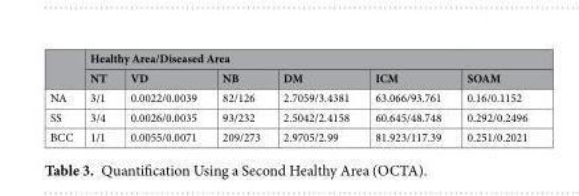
<table><thead><tr><td rowspan="2"></td><td colspan="6">Healthy Area/Diseased Area</td></tr><tr><td>NT</td><td>VD</td><td>NB</td><td>DM</td><td>ICM</td><td>SOAM</td></tr></thead><tbody><tr><td>NA</td><td>3/1</td><td>0.0022/0.0039</td><td>82/126</td><td>2.7059/3.4381</td><td>63.066/93.761</td><td>0.16/0.1152</td></tr><tr><td>SS</td><td>3/4</td><td>0.0026/0.0035</td><td>93/232</td><td>2.5042/2.4158</td><td>60.645/48.748</td><td>0.292/0.2496</td></tr><tr><td>BCC</td><td>1/1</td><td>0.0055/0.0071</td><td>209/273</td><td>2.9705/2.99</td><td>81.923/117.39</td><td>0.251/0.2021</td></tr></tbody></table>